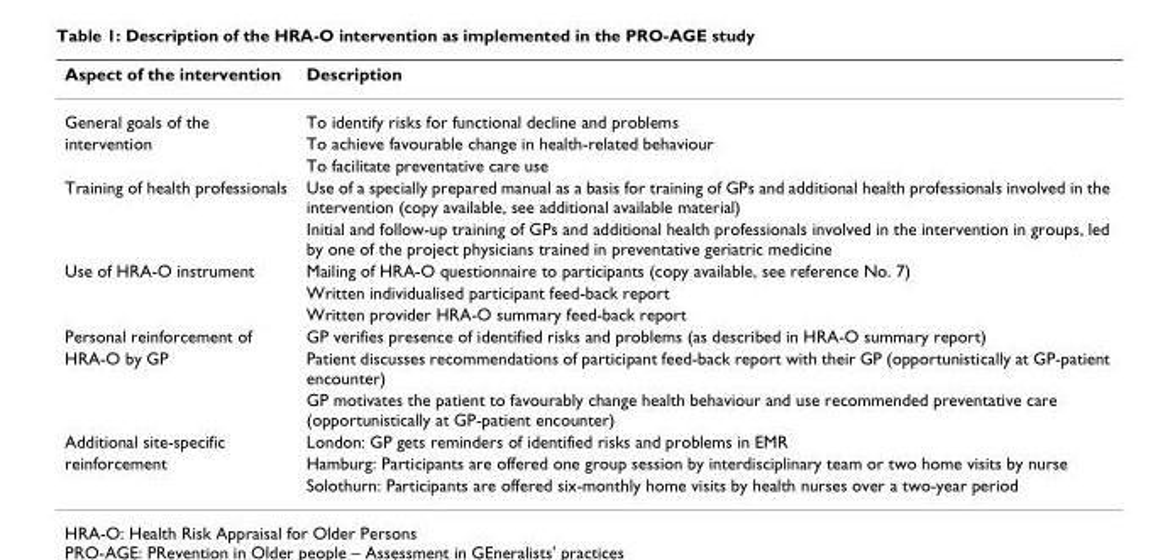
<table><thead><tr><td>Aspect of the intervention</td><td>Description</td></tr></thead><tbody><tr><td>General goals of the</td><td>To identify risks for functional decline and problems</td></tr><tr><td rowspan="2">intervention</td><td>To achieve favourable change in health-related behaviour</td></tr><tr><td>To facilitate preventative care use</td></tr><tr><td rowspan="2">Training of health professionals</td><td>Use of a specially prepared manual as a basis for training of GPs and additional health professionals involved in the intervention (copy available, see additional available material)</td></tr><tr><td>Initial and follow-up training of GPs and additional health professionals involved in the intervention in groups, led by one of the project physicians trained in preventative geriatric medicine</td></tr><tr><td rowspan="3">Use of HRA-O instrument</td><td>Mailing of HRA-O questionnaire to participants (copy available, see reference No. 7)</td></tr><tr><td>Written individualised participant feed-back report</td></tr><tr><td>Written provider HRA-O summary feed-back report</td></tr><tr><td>Personal reinforcement of</td><td>GP verifies presence of identified risks and problems (as described in HRA-O summary report)</td></tr><tr><td rowspan="2">HRA-O by GP</td><td>Patient discusses recommendations of participant feed-back report with their GP (opportunistically at GP-patient encounter)</td></tr><tr><td>GP motivates the patient to favourably change health behaviour and use recommended preventative care (opportunistically at GP-patient encounter)</td></tr><tr><td>Additional site-specific</td><td>London: GP gets reminders of identified risks and problems in EMR</td></tr><tr><td rowspan="2">reinforcement</td><td>Hamburg: Participants are offered one group session by interdisciplinary team or two home visits by nurse</td></tr><tr><td>Solothurn: Participants are offered six-monthly home visits by health nurses over a two-year period</td></tr></tbody></table>